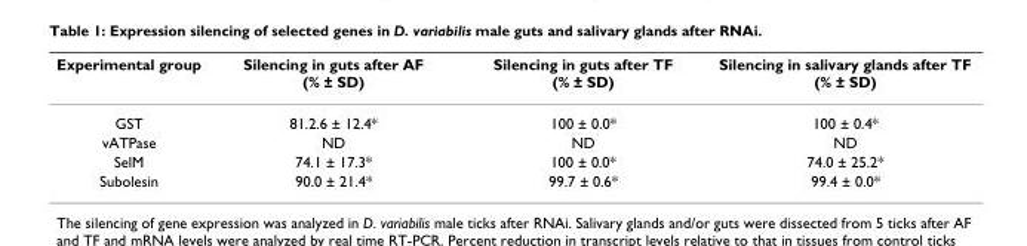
<table><thead><tr><td>Experimental group</td><td>Silencing in guts after AF (% ± SD)</td><td>Silencing in guts after TF (% ± SD)</td><td>Silencing in salivary glands after TF (% ± SD)</td></tr></thead><tbody><tr><td>GST</td><td>81.2.6 ± 12.4*</td><td>100 ± 0.0*</td><td>100 ± 0.4*</td></tr><tr><td>vATPase</td><td>ND</td><td>ND</td><td>ND</td></tr><tr><td>SelM</td><td>74.1 ± 17.3*</td><td>100 ± 0.0*</td><td>74.0 ± 25.2*</td></tr><tr><td>Subolesin</td><td>90.0 ± 21.4*</td><td>99.7 ± 0.6*</td><td>99.4 ± 0.0*</td></tr></tbody></table>